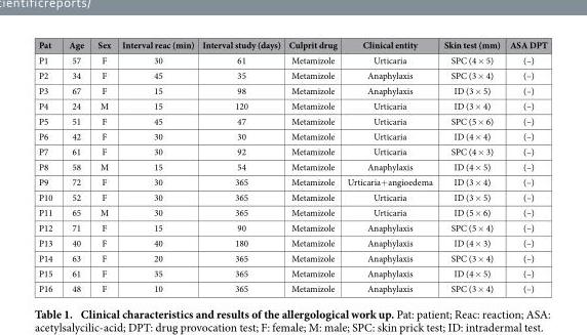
<table><thead><tr><td>Pat</td><td>Age</td><td>Sex</td><td>Interval reac (min)</td><td>Interval study (days)</td><td>Culprit drug</td><td>Clinical entity</td><td>Skin test (mm)</td><td>ASA DPT</td></tr></thead><tbody><tr><td>P1</td><td>57</td><td>F</td><td>30</td><td>61</td><td>Metamizole</td><td>Urticaria</td><td>SPC (4 × 5)</td><td>(–)</td></tr><tr><td>P2</td><td>34</td><td>F</td><td>45</td><td>35</td><td>Metamizole</td><td>Anaphylaxis</td><td>SPC (3 × 4)</td><td>(–)</td></tr><tr><td>P3</td><td>67</td><td>F</td><td>15</td><td>98</td><td>Metamizole</td><td>Anaphylaxis</td><td>ID (3 × 5)</td><td>(–)</td></tr><tr><td>P4</td><td>24</td><td>M</td><td>15</td><td>120</td><td>Metamizole</td><td>Urticaria</td><td>ID (3 × 4)</td><td>(–)</td></tr><tr><td>P5</td><td>51</td><td>F</td><td>45</td><td>47</td><td>Metamizole</td><td>Urticaria</td><td>SPC (5 × 6)</td><td>(–)</td></tr><tr><td>P6</td><td>42</td><td>F</td><td>30</td><td>30</td><td>Metamizole</td><td>Urticaria</td><td>ID (4 × 4)</td><td>(–)</td></tr><tr><td>P7</td><td>61</td><td>F</td><td>30</td><td>92</td><td>Metamizole</td><td>Urticaria</td><td>SPC (4 × 3)</td><td>(–)</td></tr><tr><td>P8</td><td>58</td><td>M</td><td>15</td><td>54</td><td>Metamizole</td><td>Anaphylaxis</td><td>ID (4 × 5)</td><td>(–)</td></tr><tr><td>P9</td><td>72</td><td>F</td><td>30</td><td>365</td><td>Metamizole</td><td>Urticaria+ angioedema</td><td>ID (3 × 4)</td><td>(–)</td></tr><tr><td>P10</td><td>52</td><td>F</td><td>30</td><td>365</td><td>Metamizole</td><td>Urticaria</td><td>ID (3 × 5)</td><td>(–)</td></tr><tr><td>P11</td><td>65</td><td>M</td><td>30</td><td>365</td><td>Metamizole</td><td>Urticaria</td><td>ID (5 × 6)</td><td>(–)</td></tr><tr><td>P12</td><td>71</td><td>F</td><td>15</td><td>90</td><td>Metamizole</td><td>Anaphylaxis</td><td>SPC (5 × 4)</td><td>(–)</td></tr><tr><td>P13</td><td>40</td><td>F</td><td>40</td><td>180</td><td>Metamizole</td><td>Anaphylaxis</td><td>ID (4 × 3)</td><td>(–)</td></tr><tr><td>P14</td><td>63</td><td>F</td><td>20</td><td>365</td><td>Metamizole</td><td>Anaphylaxis</td><td>SPC (3 × 4)</td><td>(–)</td></tr><tr><td>P15</td><td>61</td><td>F</td><td>35</td><td>365</td><td>Metamizole</td><td>Anaphylaxis</td><td>ID (4 × 5)</td><td>(–)</td></tr><tr><td>P16</td><td>48</td><td>F</td><td>10</td><td>365</td><td>Metamizole</td><td>Anaphylaxis</td><td>SPC (3 × 4)</td><td>(–)</td></tr></tbody></table>